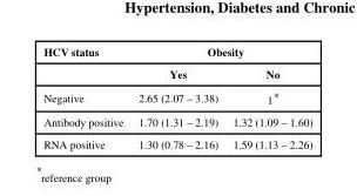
<table><thead><tr><td rowspan="2">HCV status</td><td colspan="2">Obesity</td></tr><tr><td>Yes</td><td>No</td></tr></thead><tbody><tr><td>Negative</td><td>2.65 (2.07 – 3.38)</td><td>1*</td></tr><tr><td>Antibody positive</td><td>1.70 (1.31 – 2.19)</td><td>1.32 (1.09 – 1.60)</td></tr><tr><td>RNA positive</td><td>1.30 (0.78 – 2.16)</td><td>1.59 (1.13 – 2.26)</td></tr></tbody></table>